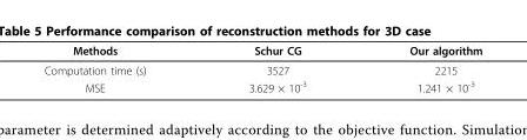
<table><thead><tr><td>Methods</td><td>Schur CG</td><td>Our algorithm</td></tr></thead><tbody><tr><td>Computation time (s)</td><td>3527</td><td>2215</td></tr><tr><td>MSE</td><td>3.629 × 10<sup>-3</sup></td><td>1.241 × 10<sup>-3</sup></td></tr></tbody></table>